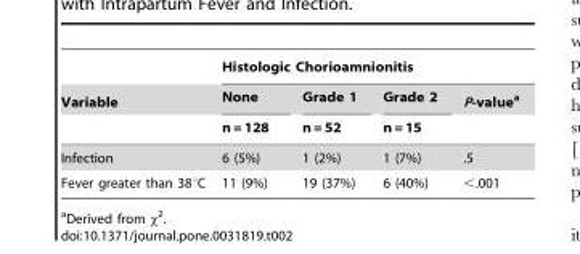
<table><thead><tr><td rowspan="3">Variable</td><td colspan="4">Histologic Chorioamnionitis</td></tr><tr><td rowspan="2">None n = 128</td><td rowspan="2">Grade 1 n = 52</td><td rowspan="2">Grade 2 n = 15</td><td rowspan="2">P-value<sup>a</sup></td></tr><tr></tr></thead><tbody><tr><td>Infection</td><td>6 (5%)</td><td>1 (2%)</td><td>1 (7%)</td><td>.5</td></tr><tr><td>Fever greater than 38°C</td><td>11 (9%)</td><td>19 (37%)</td><td>6 (40%)</td><td>&lt;.001</td></tr></tbody></table>